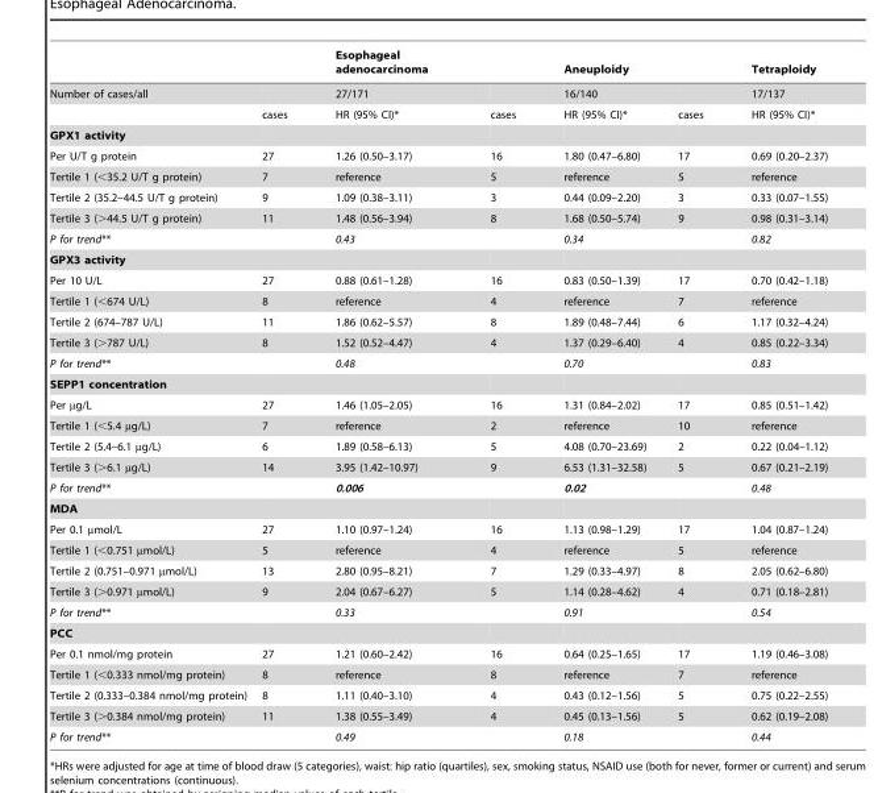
<table><thead><tr><td></td><td></td><td>Esophageal adenocarcinoma</td><td></td><td>Aneuploidy</td><td></td><td>Tetraploidy</td></tr></thead><tbody><tr><td rowspan="2">Number of cases/all</td><td></td><td>27/171</td><td></td><td>16/140</td><td></td><td>17/137</td></tr><tr><td>cases</td><td>HR (95% CI)*</td><td>cases</td><td>HR (95% CI)*</td><td>cases</td><td>HR (95% CI)*</td></tr><tr><td colspan="7">GPX1 activity</td></tr><tr><td>Per U/T g protein</td><td>27</td><td>1.26 (0.50–3.17)</td><td>16</td><td>1.80 (0.47–6.80)</td><td>17</td><td>0.69 (0.20–2.37)</td></tr><tr><td>Tertile 1 (&lt;35.2 U/T g protein)</td><td>7</td><td>reference</td><td>5</td><td>reference</td><td>5</td><td>reference</td></tr><tr><td>Tertile 2 (35.2–44.5 U/T g protein)</td><td>9</td><td>1.09 (0.38–3.11)</td><td>3</td><td>0.44 (0.09–2.20)</td><td>3</td><td>0.33 (0.07–1.55)</td></tr><tr><td>Tertile 3 (&gt;44.5 U/T g protein)</td><td>11</td><td>1.48 (0.56–3.94)</td><td>8</td><td>1.68 (0.50–5.74)</td><td>9</td><td>0.98 (0.31–3.14)</td></tr><tr><td>P for trend**</td><td></td><td>0.43</td><td></td><td>0.34</td><td></td><td>0.82</td></tr><tr><td colspan="7">GPX3 activity</td></tr><tr><td>Per 10 U/L</td><td>27</td><td>0.88 (0.61–1.28)</td><td>16</td><td>0.83 (0.50–1.39)</td><td>17</td><td>0.70 (0.42–1.18)</td></tr><tr><td>Tertile 1 (&lt;674 U/L)</td><td>8</td><td>reference</td><td>4</td><td>reference</td><td>7</td><td>reference</td></tr><tr><td>Tertile 2 (674–787 U/L)</td><td>11</td><td>1.86 (0.62–5.57)</td><td>8</td><td>1.89 (0.48–7.44)</td><td>6</td><td>1.17 (0.32–4.24)</td></tr><tr><td>Tertile 3 (&gt;787 U/L)</td><td>8</td><td>1.52 (0.52–4.47)</td><td>4</td><td>1.37 (0.29–6.40)</td><td>4</td><td>0.85 (0.22–3.34)</td></tr><tr><td>P for trend**</td><td></td><td>0.48</td><td></td><td>0.70</td><td></td><td>0.83</td></tr><tr><td colspan="7">SEPP1 concentration</td></tr><tr><td>Per µg/L</td><td>27</td><td>1.46 (1.05–2.05)</td><td>16</td><td>1.31 (0.84–2.02)</td><td>17</td><td>0.85 (0.51–1.42)</td></tr><tr><td>Tertile 1 (&lt;5.4 µg/L)</td><td>7</td><td>reference</td><td>2</td><td>reference</td><td>10</td><td>reference</td></tr><tr><td>Tertile 2 (5.4–6.1 µg/L)</td><td>6</td><td>1.89 (0.58–6.13)</td><td>5</td><td>4.08 (0.70–23.69)</td><td>2</td><td>0.22 (0.04–1.12)</td></tr><tr><td>Tertile 3 (&gt;6.1 µg/L)</td><td>14</td><td>3.95 (1.42–10.97)</td><td>9</td><td>6.53 (1.31–32.58)</td><td>5</td><td>0.67 (0.21–2.19)</td></tr><tr><td>P for trend**</td><td></td><td>0.006</td><td></td><td>0.02</td><td></td><td>0.48</td></tr><tr><td colspan="7">MDA</td></tr><tr><td>Per 0.1 µmol/L</td><td>27</td><td>1.10 (0.97–1.24)</td><td>16</td><td>1.13 (0.98–1.29)</td><td>17</td><td>1.04 (0.87–1.24)</td></tr><tr><td>Tertile 1 (&lt;0.751 µmol/L)</td><td>5</td><td>reference</td><td>4</td><td>reference</td><td>5</td><td>reference</td></tr><tr><td>Tertile 2 (0.751–0.971 µmol/L)</td><td>13</td><td>2.80 (0.95–8.21)</td><td>7</td><td>1.29 (0.33–4.97)</td><td>8</td><td>2.05 (0.62–6.80)</td></tr><tr><td>Tertile 3 (&gt;0.971 µmol/L)</td><td>9</td><td>2.04 (0.67–6.27)</td><td>5</td><td>1.14 (0.28–4.62)</td><td>4</td><td>0.71 (0.18–2.81)</td></tr><tr><td>P for trend**</td><td></td><td>0.33</td><td></td><td>0.91</td><td></td><td>0.54</td></tr><tr><td colspan="7">PCC</td></tr><tr><td>Per 0.1 nmol/mg protein</td><td>27</td><td>1.21 (0.60–2.42)</td><td>16</td><td>0.64 (0.25–1.65)</td><td>17</td><td>1.19 (0.46–3.08)</td></tr><tr><td>Tertile 1 (&lt;0.333 nmol/mg protein)</td><td>8</td><td>reference</td><td>8</td><td>reference</td><td>7</td><td>reference</td></tr><tr><td>Tertile 2 (0.333–0.384 nmol/mg protein)</td><td>8</td><td>1.11 (0.40–3.10)</td><td>4</td><td>0.43 (0.12–1.56)</td><td>5</td><td>0.75 (0.22–2.55)</td></tr><tr><td>Tertile 3 (&gt;0.384 nmol/mg protein)</td><td>11</td><td>1.38 (0.55–3.49)</td><td>4</td><td>0.45 (0.13–1.56)</td><td>5</td><td>0.62 (0.19–2.08)</td></tr><tr><td>P for trend**</td><td></td><td>0.49</td><td></td><td>0.18</td><td></td><td>0.44</td></tr></tbody></table>